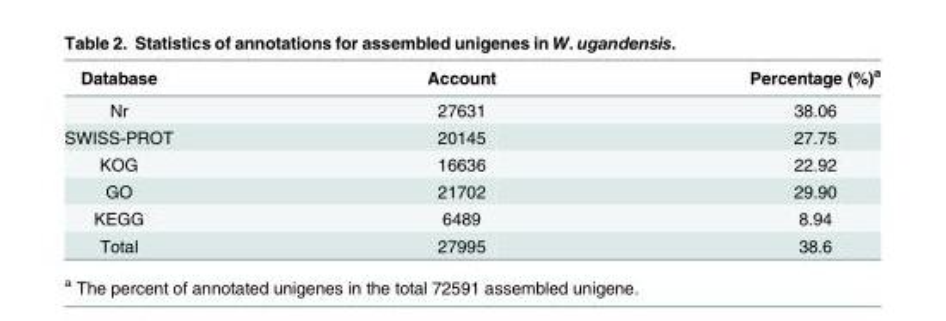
<table><thead><tr><td>Database</td><td>Account</td><td>Percentage (%)<sup>a</sup></td></tr></thead><tbody><tr><td>Nr</td><td>27631</td><td>38.06</td></tr><tr><td>SWISS-PROT</td><td>20145</td><td>27.75</td></tr><tr><td>KOG</td><td>16636</td><td>22.92</td></tr><tr><td>GO</td><td>21702</td><td>29.90</td></tr><tr><td>KEGG</td><td>6489</td><td>8.94</td></tr><tr><td>Total</td><td>27995</td><td>38.6</td></tr></tbody></table>